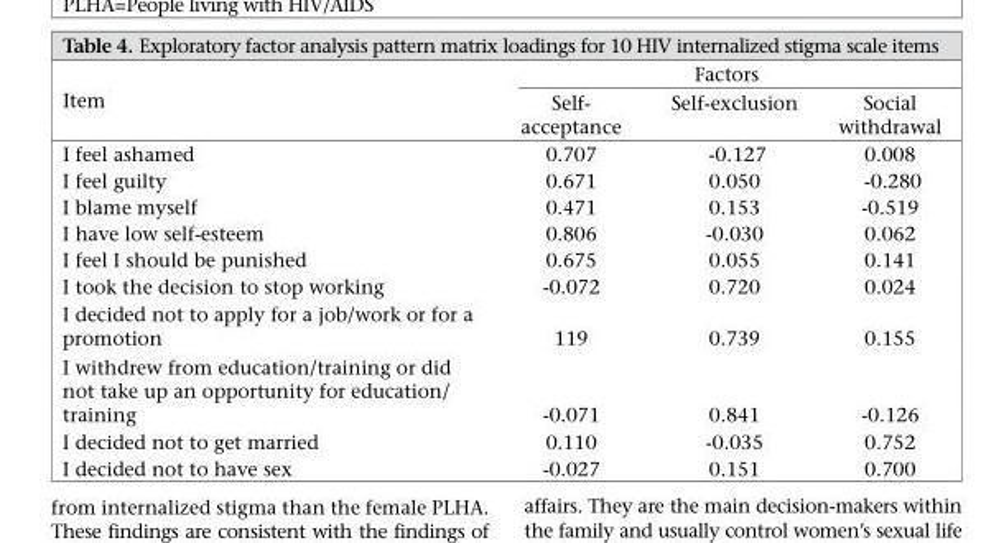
<table><thead><tr><td rowspan="2">Item</td><td colspan="3">Factors</td></tr><tr><td>Self- acceptance</td><td>Self-exclusion</td><td>Social withdrawal</td></tr></thead><tbody><tr><td>I feel ashamed</td><td>0.707</td><td>-0.127</td><td>0.008</td></tr><tr><td>I feel guilty</td><td>0.671</td><td>0.050</td><td>-0.280</td></tr><tr><td>I blame myself</td><td>0.471</td><td>0.153</td><td>-0.519</td></tr><tr><td>I have low self-esteem</td><td>0.806</td><td>-0.030</td><td>0.062</td></tr><tr><td>I feel I should be punished</td><td>0.675</td><td>0.055</td><td>0.141</td></tr><tr><td>I took the decision to stop working</td><td>-0.072</td><td>0.720</td><td>0.024</td></tr><tr><td>I decided not to apply for a job/work or for a promotion</td><td>119</td><td>0.739</td><td>0.155</td></tr><tr><td>I withdrew from education/training or did not take up an opportunity for education/ training</td><td>-0.071</td><td>0.841</td><td>-0.126</td></tr><tr><td>I decided not to get married</td><td>0.110</td><td>-0.035</td><td>0.752</td></tr><tr><td>I decided not to have sex</td><td>-0.027</td><td>0.151</td><td>0.700</td></tr></tbody></table>